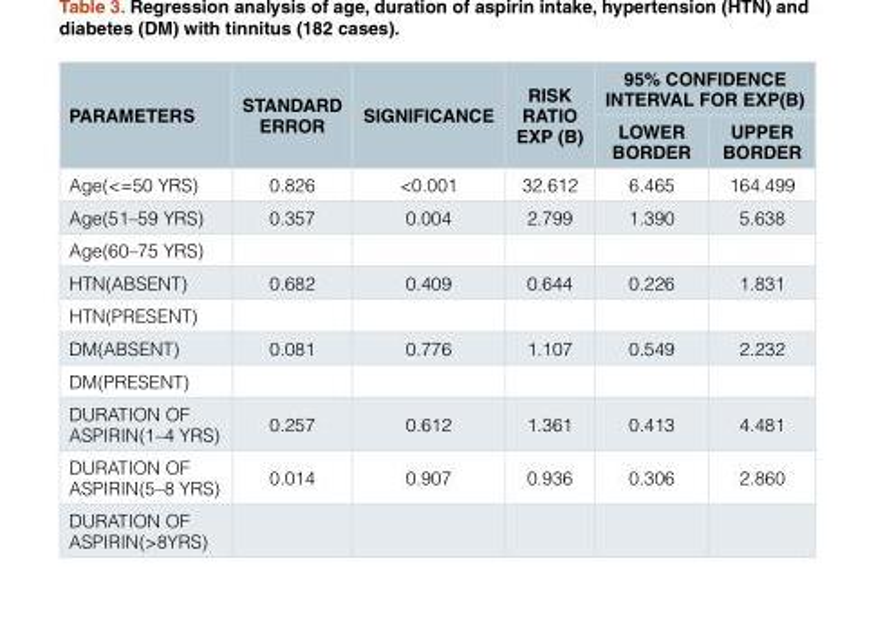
<table><thead><tr><td rowspan="2">PARAMETERS</td><td rowspan="2">STANDARD ERROR</td><td rowspan="2">SIGNIFICANCE</td><td rowspan="2">RISK RATIO EXP (B)</td><td colspan="2">95% CONFIDENCE INTERVAL FOR EXP(B)</td></tr><tr><td>LOWER BORDER</td><td>UPPER BORDER</td></tr></thead><tbody><tr><td>Age(&lt;=50 YRS)</td><td>0.826</td><td>&lt;0.001</td><td>32.612</td><td>6.465</td><td>164.499</td></tr><tr><td>Age(51–59 YRS)</td><td>0.357</td><td>0.004</td><td>2.799</td><td>1.390</td><td>5.638</td></tr><tr><td colspan="6">Age(60–75 YRS)</td></tr><tr><td>HTN(ABSENT)</td><td>0.682</td><td>0.409</td><td>0.644</td><td>0.226</td><td>1.831</td></tr><tr><td colspan="6">HTN(PRESENT)</td></tr><tr><td>DM(ABSENT)</td><td>0.081</td><td>0.776</td><td>1.107</td><td>0.549</td><td>2.232</td></tr><tr><td colspan="6">DM(PRESENT)</td></tr><tr><td>DURATION OF ASPIRIN(1–4 YRS)</td><td>0.257</td><td>0.612</td><td>1.361</td><td>0.413</td><td>4.481</td></tr><tr><td>DURATION OF ASPIRIN(5–8 YRS)</td><td>0.014</td><td>0.907</td><td>0.936</td><td>0.306</td><td>2.860</td></tr><tr><td>DURATION OF ASPIRIN(&gt;8YRS)</td><td></td><td></td><td></td><td></td><td></td></tr></tbody></table>